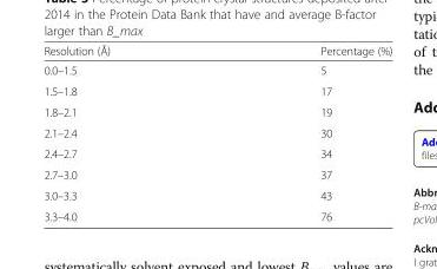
<table><thead><tr><td>Resolution (Å)</td><td>Percentage (%)</td></tr></thead><tbody><tr><td>0.0–1.5</td><td>5</td></tr><tr><td>1.5–1.8</td><td>17</td></tr><tr><td>1.8–2.1</td><td>19</td></tr><tr><td>2.1–2.4</td><td>30</td></tr><tr><td>2.4–2.7</td><td>34</td></tr><tr><td>2.7–3.0</td><td>37</td></tr><tr><td>3.0–3.3</td><td>43</td></tr><tr><td>3.3–4.0</td><td>76</td></tr></tbody></table>